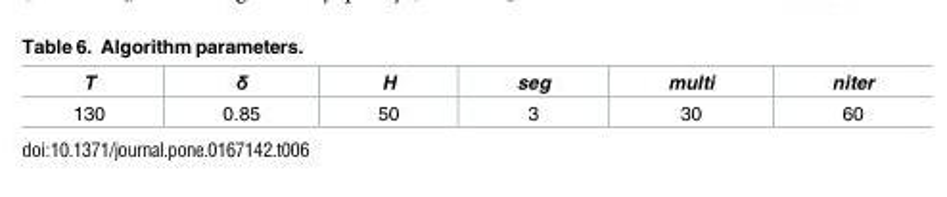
<table><thead><tr><td>T</td><td>δ</td><td>H</td><td>seg</td><td>multi</td><td>niter</td></tr></thead><tbody><tr><td>130</td><td>0.85</td><td>50</td><td>3</td><td>30</td><td>60</td></tr></tbody></table>